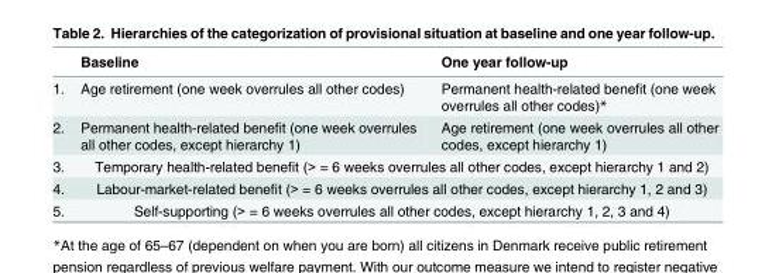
<table><thead><tr><td></td><td>Baseline</td><td>One year follow-up</td></tr></thead><tbody><tr><td>1.</td><td>Age retirement (one week overrules all other codes)</td><td>Permanent health-related benefit (one week overrules all other codes)*</td></tr><tr><td>2.</td><td>Permanent health-related benefit (one week overrules all other codes, except hierarchy 1)</td><td>Age retirement (one week overrules all other codes, except hierarchy 1)</td></tr><tr><td>3.</td><td colspan="2">Temporary health-related benefit (&gt; = 6 weeks overrules all other codes, except hierarchy 1 and 2)</td></tr><tr><td>4.</td><td colspan="2">Labour-market-related benefit (&gt; = 6 weeks overrules all other codes, except hierarchy 1, 2 and 3)</td></tr><tr><td>5.</td><td colspan="2">Self-supporting (&gt; = 6 weeks overrules all other codes, except hierarchy 1, 2, 3 and 4)</td></tr></tbody></table>